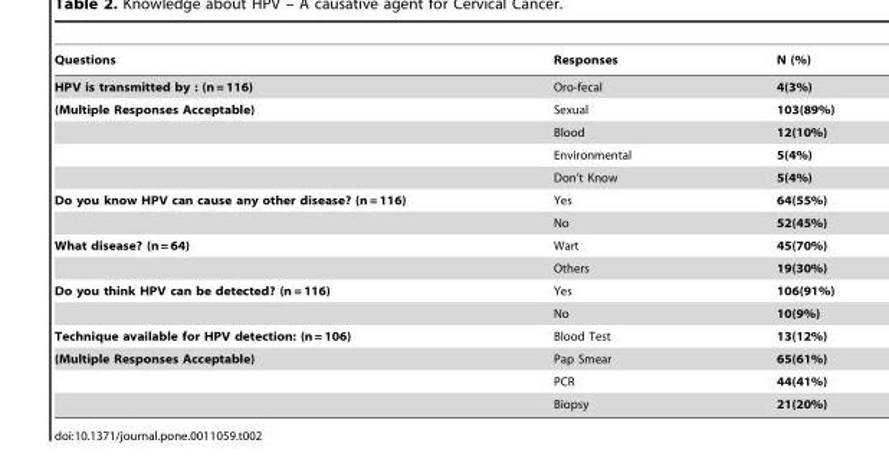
<table><thead><tr><td>Questions</td><td>Responses</td><td>N (%)</td></tr></thead><tbody><tr><td>HPV is transmitted by : (n = 116)</td><td>Oro-fecal</td><td>4(3%)</td></tr><tr><td rowspan="4">(Multiple Responses Acceptable)</td><td>Sexual</td><td>103(89%)</td></tr><tr><td>Blood</td><td>12(10%)</td></tr><tr><td>Environmental</td><td>5(4%)</td></tr><tr><td>Don’t Know</td><td>5(4%)</td></tr><tr><td rowspan="2">Do you know HPV can cause any other disease? (n = 116)</td><td>Yes</td><td>64(55%)</td></tr><tr><td>No</td><td>52(45%)</td></tr><tr><td rowspan="2">What disease? (n = 64)</td><td>Wart</td><td>45(70%)</td></tr><tr><td>Others</td><td>19(30%)</td></tr><tr><td rowspan="2">Do you think HPV can be detected? (n = 116)</td><td>Yes</td><td>106(91%)</td></tr><tr><td>No</td><td>10(9%)</td></tr><tr><td>Technique available for HPV detection: (n = 106)</td><td>Blood Test</td><td>13(12%)</td></tr><tr><td rowspan="3">(Multiple Responses Acceptable)</td><td>Pap Smear</td><td>65(61%)</td></tr><tr><td>PCR</td><td>44(41%)</td></tr><tr><td>Biopsy</td><td>21(20%)</td></tr></tbody></table>